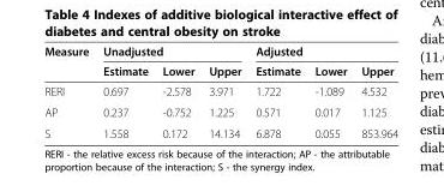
<table><thead><tr><td rowspan="2">Measure</td><td colspan="3">Unadjusted</td><td colspan="3">Adjusted</td></tr><tr><td>Estimate</td><td>Lower</td><td>Upper</td><td>Estimate</td><td>Lower</td><td>Upper</td></tr></thead><tbody><tr><td>RERI</td><td>0.697</td><td>-2.578</td><td>3.971</td><td>1.722</td><td>-1.089</td><td>4.532</td></tr><tr><td>AP</td><td>0.237</td><td>-0.752</td><td>1.225</td><td>0.571</td><td>0.017</td><td>1.125</td></tr><tr><td>S</td><td>1.558</td><td>0.172</td><td>14.134</td><td>6.878</td><td>0.055</td><td>853.964</td></tr></tbody></table>